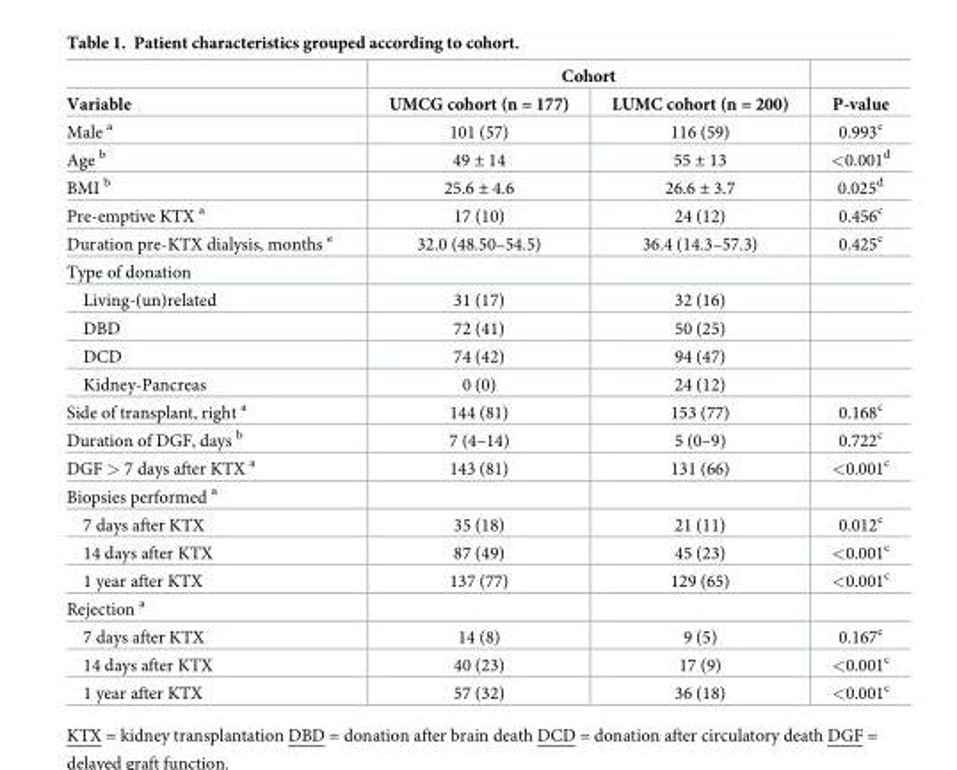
<table><thead><tr><td rowspan="2">Variable</td><td colspan="2">Cohort</td><td rowspan="2">P-value</td></tr><tr><td>UMCG cohort (n = 177)</td><td>LUMC cohort (n = 200)</td></tr></thead><tbody><tr><td>Male <sup>a</sup></td><td>101 (57)</td><td>116 (59)</td><td>0.993<sup>c</sup></td></tr><tr><td>Age <sup>b</sup></td><td>49 ± 14</td><td>55 ± 13</td><td>&lt;0.001<sup>d</sup></td></tr><tr><td>BMI <sup>b</sup></td><td>25.6 ± 4.6</td><td>26.6 ± 3.7</td><td>0.025<sup>d</sup></td></tr><tr><td>Pre-emptive KTX <sup>a</sup></td><td>17 (10)</td><td>24 (12)</td><td>0.456<sup>c</sup></td></tr><tr><td>Duration pre-KTX dialysis, months <sup>e</sup></td><td>32.0 (48.50–54.5)</td><td>36.4 (14.3–57.3)</td><td>0.425<sup>c</sup></td></tr><tr><td colspan="4">Type of donation</td></tr><tr><td>Living-(un)related</td><td>31 (17)</td><td>32 (16)</td><td></td></tr><tr><td>DBD</td><td>72 (41)</td><td>50 (25)</td><td></td></tr><tr><td>DCD</td><td>74 (42)</td><td>94 (47)</td><td></td></tr><tr><td>Kidney-Pancreas</td><td>0 (0)</td><td>24 (12)</td><td></td></tr><tr><td>Side of transplant, right <sup>a</sup></td><td>144 (81)</td><td>153 (77)</td><td>0.168<sup>c</sup></td></tr><tr><td>Duration of DGF, days <sup>b</sup></td><td>7 (4–14)</td><td>5 (0–9)</td><td>0.722<sup>c</sup></td></tr><tr><td>DGF &gt; 7 days after KTX <sup>a</sup></td><td>143 (81)</td><td>131 (66)</td><td>&lt;0.001<sup>c</sup></td></tr><tr><td colspan="4">Biopsies performed <sup>a</sup></td></tr><tr><td>7 days after KTX</td><td>35 (18)</td><td>21 (11)</td><td>0.012<sup>c</sup></td></tr><tr><td>14 days after KTX</td><td>87 (49)</td><td>45 (23)</td><td>&lt;0.001<sup>c</sup></td></tr><tr><td>1 year after KTX</td><td>137 (77)</td><td>129 (65)</td><td>&lt;0.001<sup>c</sup></td></tr><tr><td colspan="4">Rejection <sup>a</sup></td></tr><tr><td>7 days after KTX</td><td>14 (8)</td><td>9 (5)</td><td>0.167<sup>c</sup></td></tr><tr><td>14 days after KTX</td><td>40 (23)</td><td>17 (9)</td><td>&lt;0.001<sup>c</sup></td></tr><tr><td>1 year after KTX</td><td>57 (32)</td><td>36 (18)</td><td>&lt;0.001<sup>c</sup></td></tr></tbody></table>